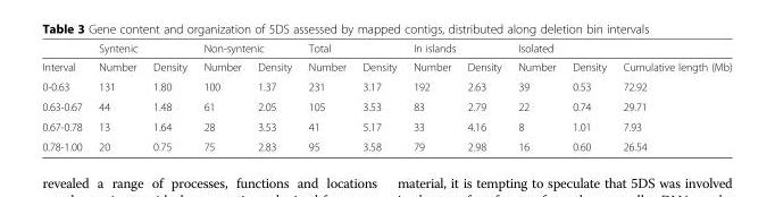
<table><thead><tr><td rowspan="2">Interval</td><td colspan="2">Syntenic</td><td colspan="2">Non-syntenic</td><td colspan="2">Total</td><td colspan="2">In islands</td><td colspan="2">Isolated</td><td rowspan="2">Cumulative length (Mb)</td></tr><tr><td>Number</td><td>Density</td><td>Number</td><td>Density</td><td>Number</td><td>Density</td><td>Number</td><td>Density</td><td>Number</td><td>Density</td></tr></thead><tbody><tr><td>0-0.63</td><td>131</td><td>1.80</td><td>100</td><td>1.37</td><td>231</td><td>3.17</td><td>192</td><td>2.63</td><td>39</td><td>0.53</td><td>72.92</td></tr><tr><td>0.63-0.67</td><td>44</td><td>1.48</td><td>61</td><td>2.05</td><td>105</td><td>3.53</td><td>83</td><td>2.79</td><td>22</td><td>0.74</td><td>29.71</td></tr><tr><td>0.67-0.78</td><td>13</td><td>1.64</td><td>28</td><td>3.53</td><td>41</td><td>5.17</td><td>33</td><td>4.16</td><td>8</td><td>1.01</td><td>7.93</td></tr><tr><td>0.78-1.00</td><td>20</td><td>0.75</td><td>75</td><td>2.83</td><td>95</td><td>3.58</td><td>79</td><td>2.98</td><td>16</td><td>0.60</td><td>26.54</td></tr></tbody></table>